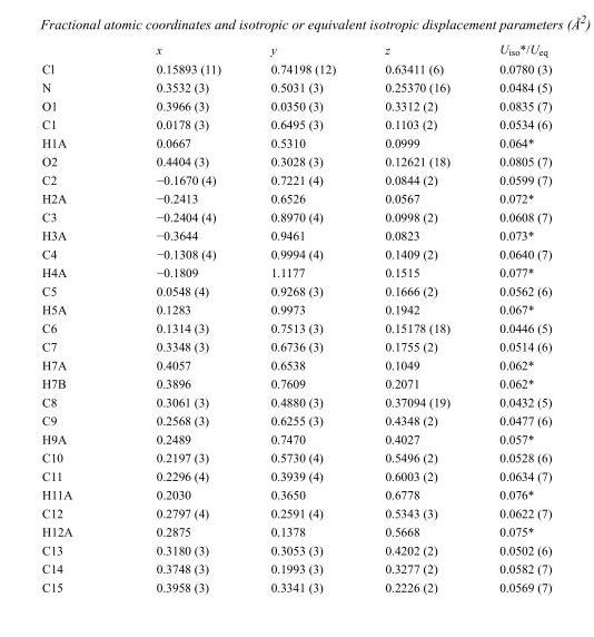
<table><thead><tr><td></td><td>x</td><td>y</td><td>z</td><td>U<sub>iso</sub>*/U<sub>eq</sub></td></tr></thead><tbody><tr><td>Cl</td><td>0.15893 (11)</td><td>0.74198 (12)</td><td>0.63411 (6)</td><td>0.0780 (3)</td></tr><tr><td>N</td><td>0.3532 (3)</td><td>0.5031 (3)</td><td>0.25370 (16)</td><td>0.0484 (5)</td></tr><tr><td>O1</td><td>0.3966 (3)</td><td>0.0350 (3)</td><td>0.3312 (2)</td><td>0.0835 (7)</td></tr><tr><td>C1</td><td>0.0178 (3)</td><td>0.6495 (3)</td><td>0.1103 (2)</td><td>0.0534 (6)</td></tr><tr><td>H1A</td><td>0.0667</td><td>0.5310</td><td>0.0999</td><td>0.064*</td></tr><tr><td>O2</td><td>0.4404 (3)</td><td>0.3028 (3)</td><td>0.12621 (18)</td><td>0.0805 (7)</td></tr><tr><td>C2</td><td>−0.1670 (4)</td><td>0.7221 (4)</td><td>0.0844 (2)</td><td>0.0599 (7)</td></tr><tr><td>H2A</td><td>−0.2413</td><td>0.6526</td><td>0.0567</td><td>0.072*</td></tr><tr><td>C3</td><td>−0.2404 (4)</td><td>0.8970 (4)</td><td>0.0998 (2)</td><td>0.0608 (7)</td></tr><tr><td>H3A</td><td>−0.3644</td><td>0.9461</td><td>0.0823</td><td>0.073*</td></tr><tr><td>C4</td><td>−0.1308 (4)</td><td>0.9994 (4)</td><td>0.1409 (2)</td><td>0.0640 (7)</td></tr><tr><td>H4A</td><td>−0.1809</td><td>1.1177</td><td>0.1515</td><td>0.077*</td></tr><tr><td>C5</td><td>0.0548 (4)</td><td>0.9268 (3)</td><td>0.1666 (2)</td><td>0.0562 (6)</td></tr><tr><td>H5A</td><td>0.1283</td><td>0.9973</td><td>0.1942</td><td>0.067*</td></tr><tr><td>C6</td><td>0.1314 (3)</td><td>0.7513 (3)</td><td>0.15178 (18)</td><td>0.0446 (5)</td></tr><tr><td>C7</td><td>0.3348 (3)</td><td>0.6736 (3)</td><td>0.1755 (2)</td><td>0.0514 (6)</td></tr><tr><td>H7A</td><td>0.4057</td><td>0.6538</td><td>0.1049</td><td>0.062*</td></tr><tr><td>H7B</td><td>0.3896</td><td>0.7609</td><td>0.2071</td><td>0.062*</td></tr><tr><td>C8</td><td>0.3061 (3)</td><td>0.4880 (3)</td><td>0.37094 (19)</td><td>0.0432 (5)</td></tr><tr><td>C9</td><td>0.2568 (3)</td><td>0.6255 (3)</td><td>0.4348 (2)</td><td>0.0477 (6)</td></tr><tr><td>H9A</td><td>0.2489</td><td>0.7470</td><td>0.4027</td><td>0.057*</td></tr><tr><td>C10</td><td>0.2197 (3)</td><td>0.5730 (4)</td><td>0.5496 (2)</td><td>0.0528 (6)</td></tr><tr><td>C11</td><td>0.2296 (4)</td><td>0.3939 (4)</td><td>0.6003 (2)</td><td>0.0634 (7)</td></tr><tr><td>H11A</td><td>0.2030</td><td>0.3650</td><td>0.6778</td><td>0.076*</td></tr><tr><td>C12</td><td>0.2797 (4)</td><td>0.2591 (4)</td><td>0.5343 (3)</td><td>0.0622 (7)</td></tr><tr><td>H12A</td><td>0.2875</td><td>0.1378</td><td>0.5668</td><td>0.075*</td></tr><tr><td>C13</td><td>0.3180 (3)</td><td>0.3053 (3)</td><td>0.4202 (2)</td><td>0.0502 (6)</td></tr><tr><td>C14</td><td>0.3748 (3)</td><td>0.1993 (3)</td><td>0.3277 (2)</td><td>0.0582 (7)</td></tr><tr><td>C15</td><td>0.3958 (3)</td><td>0.3341 (3)</td><td>0.2226 (2)</td><td>0.0569 (7)</td></tr></tbody></table>